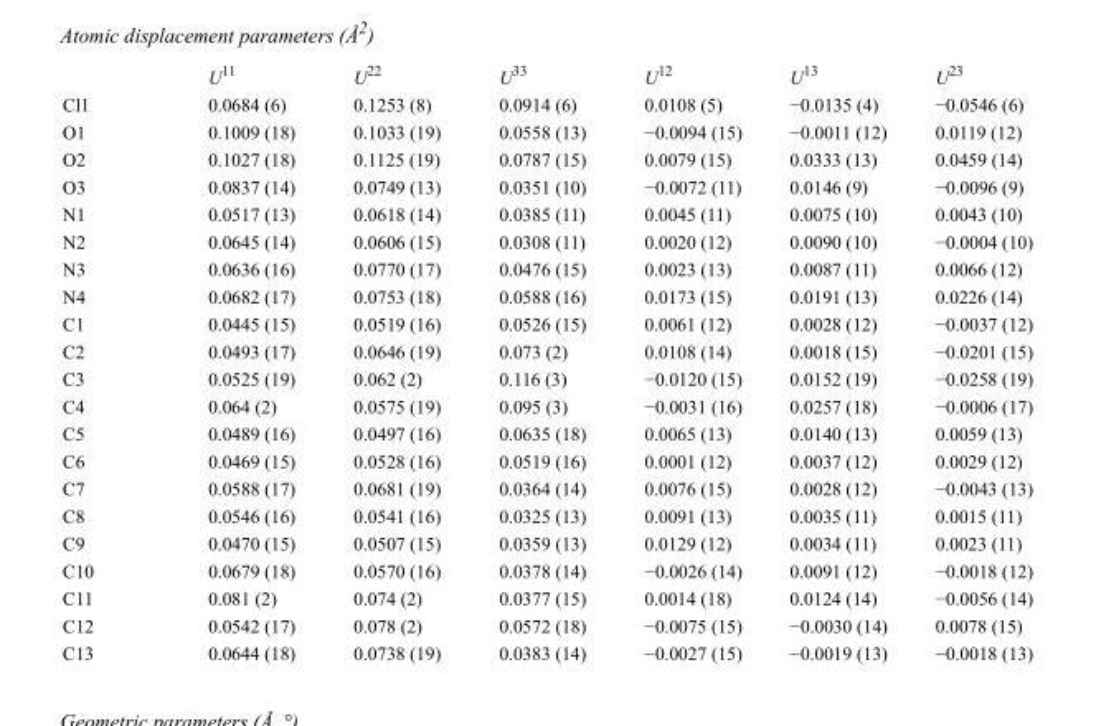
<table><thead><tr><td></td><td>U<sup>11</sup></td><td>U<sup>22</sup></td><td>U<sup>33</sup></td><td>U<sup>12</sup></td><td>U<sup>13</sup></td><td>U<sup>23</sup></td></tr></thead><tbody><tr><td>Cl1</td><td>0.0684 (6)</td><td>0.1253 (8)</td><td>0.0914 (6)</td><td>0.0108 (5)</td><td>−0.0135 (4)</td><td>−0.0546 (6)</td></tr><tr><td>O1</td><td>0.1009 (18)</td><td>0.1033 (19)</td><td>0.0558 (13)</td><td>−0.0094 (15)</td><td>−0.0011 (12)</td><td>0.0119 (12)</td></tr><tr><td>O2</td><td>0.1027 (18)</td><td>0.1125 (19)</td><td>0.0787 (15)</td><td>0.0079 (15)</td><td>0.0333 (13)</td><td>0.0459 (14)</td></tr><tr><td>O3</td><td>0.0837 (14)</td><td>0.0749 (13)</td><td>0.0351 (10)</td><td>−0.0072 (11)</td><td>0.0146 (9)</td><td>−0.0096 (9)</td></tr><tr><td>N1</td><td>0.0517 (13)</td><td>0.0618 (14)</td><td>0.0385 (11)</td><td>0.0045 (11)</td><td>0.0075 (10)</td><td>0.0043 (10)</td></tr><tr><td>N2</td><td>0.0645 (14)</td><td>0.0606 (15)</td><td>0.0308 (11)</td><td>0.0020 (12)</td><td>0.0090 (10)</td><td>−0.0004 (10)</td></tr><tr><td>N3</td><td>0.0636 (16)</td><td>0.0770 (17)</td><td>0.0476 (15)</td><td>0.0023 (13)</td><td>0.0087 (11)</td><td>0.0066 (12)</td></tr><tr><td>N4</td><td>0.0682 (17)</td><td>0.0753 (18)</td><td>0.0588 (16)</td><td>0.0173 (15)</td><td>0.0191 (13)</td><td>0.0226 (14)</td></tr><tr><td>C1</td><td>0.0445 (15)</td><td>0.0519 (16)</td><td>0.0526 (15)</td><td>0.0061 (12)</td><td>0.0028 (12)</td><td>−0.0037 (12)</td></tr><tr><td>C2</td><td>0.0493 (17)</td><td>0.0646 (19)</td><td>0.073 (2)</td><td>0.0108 (14)</td><td>0.0018 (15)</td><td>−0.0201 (15)</td></tr><tr><td>C3</td><td>0.0525 (19)</td><td>0.062 (2)</td><td>0.116 (3)</td><td>−0.0120 (15)</td><td>0.0152 (19)</td><td>−0.0258 (19)</td></tr><tr><td>C4</td><td>0.064 (2)</td><td>0.0575 (19)</td><td>0.095 (3)</td><td>−0.0031 (16)</td><td>0.0257 (18)</td><td>−0.0006 (17)</td></tr><tr><td>C5</td><td>0.0489 (16)</td><td>0.0497 (16)</td><td>0.0635 (18)</td><td>0.0065 (13)</td><td>0.0140 (13)</td><td>0.0059 (13)</td></tr><tr><td>C6</td><td>0.0469 (15)</td><td>0.0528 (16)</td><td>0.0519 (16)</td><td>0.0001 (12)</td><td>0.0037 (12)</td><td>0.0029 (12)</td></tr><tr><td>C7</td><td>0.0588 (17)</td><td>0.0681 (19)</td><td>0.0364 (14)</td><td>0.0076 (15)</td><td>0.0028 (12)</td><td>−0.0043 (13)</td></tr><tr><td>C8</td><td>0.0546 (16)</td><td>0.0541 (16)</td><td>0.0325 (13)</td><td>0.0091 (13)</td><td>0.0035 (11)</td><td>0.0015 (11)</td></tr><tr><td>C9</td><td>0.0470 (15)</td><td>0.0507 (15)</td><td>0.0359 (13)</td><td>0.0129 (12)</td><td>0.0034 (11)</td><td>0.0023 (11)</td></tr><tr><td>C10</td><td>0.0679 (18)</td><td>0.0570 (16)</td><td>0.0378 (14)</td><td>−0.0026 (14)</td><td>0.0091 (12)</td><td>−0.0018 (12)</td></tr><tr><td>C11</td><td>0.081 (2)</td><td>0.074 (2)</td><td>0.0377 (15)</td><td>0.0014 (18)</td><td>0.0124 (14)</td><td>−0.0056 (14)</td></tr><tr><td>C12</td><td>0.0542 (17)</td><td>0.078 (2)</td><td>0.0572 (18)</td><td>−0.0075 (15)</td><td>−0.0030 (14)</td><td>0.0078 (15)</td></tr><tr><td>C13</td><td>0.0644 (18)</td><td>0.0738 (19)</td><td>0.0383 (14)</td><td>−0.0027 (15)</td><td>−0.0019 (13)</td><td>−0.0018 (13)</td></tr></tbody></table>